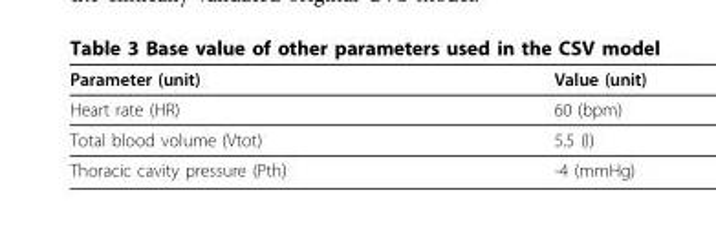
<table><thead><tr><td>Parameter (unit)</td><td>Value (unit)</td></tr></thead><tbody><tr><td>Heart rate (HR)</td><td>60 (bpm)</td></tr><tr><td>Total blood volume (Vtot)</td><td>5.5 (l)</td></tr><tr><td>Thoracic cavity pressure (Pth)</td><td>-4 (mmHg)</td></tr></tbody></table>